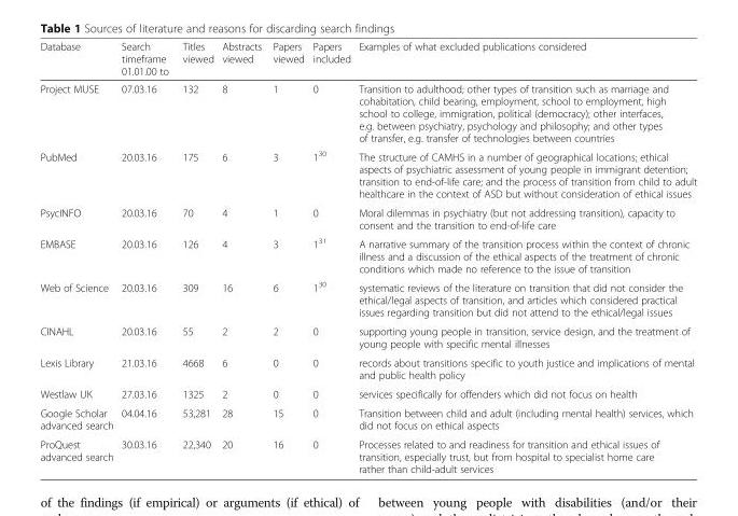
<table><thead><tr><td>Database</td><td>Search timeframe 01.01.00 to</td><td>Titles viewed</td><td>Abstracts viewed</td><td>Papers viewed</td><td>Papers included</td><td>Examples of what excluded publications considered</td></tr></thead><tbody><tr><td>Project MUSE</td><td>07.03.16</td><td>132</td><td>8</td><td>1</td><td>0</td><td>Transition to adulthood; other types of transition such as marriage and cohabitation, child bearing, employment, school to employment, high school to college, immigration, political (democracy); other interfaces, e.g. between psychiatry, psychology and philosophy; and other types of transfer, e.g. transfer of technologies between countries</td></tr><tr><td>PubMed</td><td>20.03.16</td><td>175</td><td>6</td><td>3</td><td>1<sup>30</sup></td><td>The structure of CAMHS in a number of geographical locations; ethical aspects of psychiatric assessment of young people in immigrant detention; transition to end-of-life care; and the process of transition from child to adult healthcare in the context of ASD but without consideration of ethical issues</td></tr><tr><td>PsycINFO</td><td>20.03.16</td><td>70</td><td>4</td><td>1</td><td>0</td><td>Moral dilemmas in psychiatry (but not addressing transition), capacity to consent and the transition to end-of-life care</td></tr><tr><td>EMBASE</td><td>20.03.16</td><td>126</td><td>4</td><td>3</td><td>1<sup>31</sup></td><td>A narrative summary of the transition process within the context of chronic illness and a discussion of the ethical aspects of the treatment of chronic conditions which made no reference to the issue of transition</td></tr><tr><td>Web of Science</td><td>20.03.16</td><td>309</td><td>16</td><td>6</td><td>1<sup>30</sup></td><td>systematic reviews of the literature on transition that did not consider the ethical/legal aspects of transition, and articles which considered practical issues regarding transition but did not attend to the ethical/legal issues</td></tr><tr><td>CINAHL</td><td>20.03.16</td><td>55</td><td>2</td><td>2</td><td>0</td><td>supporting young people in transition, service design, and the treatment of young people with specific mental illnesses</td></tr><tr><td>Lexis Library</td><td>21.03.16</td><td>4668</td><td>6</td><td>0</td><td>0</td><td>records about transitions specific to youth justice and implications of mental and public health policy</td></tr><tr><td>Westlaw UK</td><td>27.03.16</td><td>1325</td><td>2</td><td>0</td><td>0</td><td>services specifically for offenders which did not focus on health</td></tr><tr><td>Google Scholar advanced search</td><td>04.04.16</td><td>53,281</td><td>28</td><td>15</td><td>0</td><td>Transition between child and adult (including mental health) services, which did not focus on ethical aspects</td></tr><tr><td>ProQuest advanced search</td><td>30.03.16</td><td>22,340</td><td>20</td><td>16</td><td>0</td><td>Processes related to and readiness for transition and ethical issues of transition, especially trust, but from hospital to specialist home care rather than child-adult services</td></tr></tbody></table>